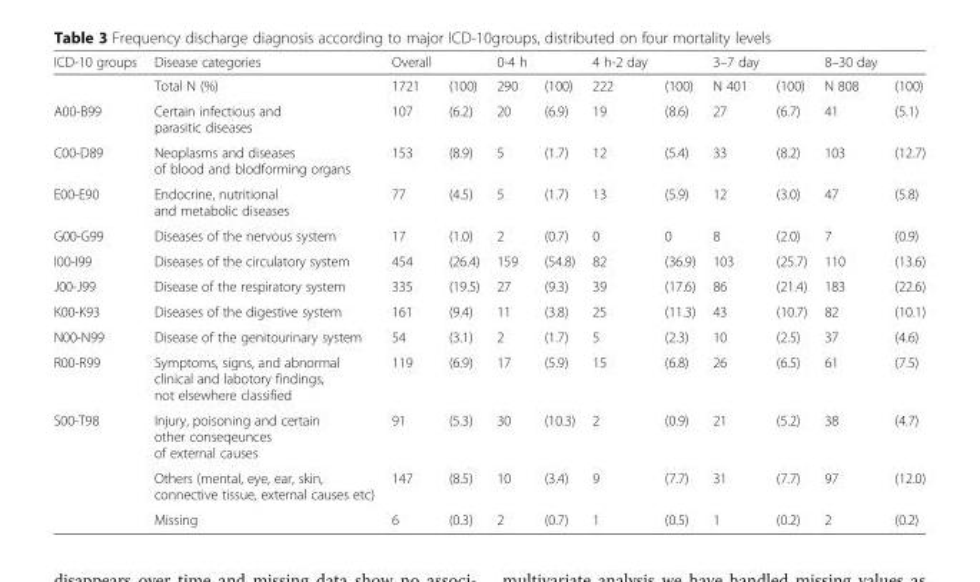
<table><thead><tr><td>ICD-10 groups</td><td>Disease categories</td><td>Overall</td><td></td><td>0-4 h</td><td></td><td>4 h-2 day</td><td></td><td>3–7 day</td><td></td><td>8–30 day</td><td></td></tr></thead><tbody><tr><td></td><td>Total N (%)</td><td>1721</td><td>(100)</td><td>290</td><td>(100)</td><td>222</td><td>(100)</td><td>N 401</td><td>(100)</td><td>N 808</td><td>(100)</td></tr><tr><td>A00-B99</td><td>Certain infectious and parasitic diseases</td><td>107</td><td>(6.2)</td><td>20</td><td>(6.9)</td><td>19</td><td>(8.6)</td><td>27</td><td>(6.7)</td><td>41</td><td>(5.1)</td></tr><tr><td>C00-D89</td><td>Neoplasms and diseases of blood and blodforming organs</td><td>153</td><td>(8.9)</td><td>5</td><td>(1.7)</td><td>12</td><td>(5.4)</td><td>33</td><td>(8.2)</td><td>103</td><td>(12.7)</td></tr><tr><td>E00-E90</td><td>Endocrine, nutritional and metabolic diseases</td><td>77</td><td>(4.5)</td><td>5</td><td>(1.7)</td><td>13</td><td>(5.9)</td><td>12</td><td>(3.0)</td><td>47</td><td>(5.8)</td></tr><tr><td>G00-G99</td><td>Diseases of the nervous system</td><td>17</td><td>(1.0)</td><td>2</td><td>(0.7)</td><td>0</td><td>0</td><td>8</td><td>(2.0)</td><td>7</td><td>(0.9)</td></tr><tr><td>I00-I99</td><td>Diseases of the circulatory system</td><td>454</td><td>(26.4)</td><td>159</td><td>(54.8)</td><td>82</td><td>(36.9)</td><td>103</td><td>(25.7)</td><td>110</td><td>(13.6)</td></tr><tr><td>J00-J99</td><td>Disease of the respiratory system</td><td>335</td><td>(19.5)</td><td>27</td><td>(9.3)</td><td>39</td><td>(17.6)</td><td>86</td><td>(21.4)</td><td>183</td><td>(22.6)</td></tr><tr><td>K00-K93</td><td>Diseases of the digestive system</td><td>161</td><td>(9.4)</td><td>11</td><td>(3.8)</td><td>25</td><td>(11.3)</td><td>43</td><td>(10.7)</td><td>82</td><td>(10.1)</td></tr><tr><td>N00-N99</td><td>Disease of the genitourinary system</td><td>54</td><td>(3.1)</td><td>2</td><td>(1.7)</td><td>5</td><td>(2.3)</td><td>10</td><td>(2.5)</td><td>37</td><td>(4.6)</td></tr><tr><td>R00-R99</td><td>Symptoms, signs, and abnormal clinical and labotory findings, not elsewhere classified</td><td>119</td><td>(6.9)</td><td>17</td><td>(5.9)</td><td>15</td><td>(6.8)</td><td>26</td><td>(6.5)</td><td>61</td><td>(7.5)</td></tr><tr><td rowspan="3">S00-T98</td><td>Injury, poisoning and certain other conseqeunces of external causes</td><td>91</td><td>(5.3)</td><td>30</td><td>(10.3)</td><td>2</td><td>(0.9)</td><td>21</td><td>(5.2)</td><td>38</td><td>(4.7)</td></tr><tr><td>Others (mental, eye, ear, skin, connective tissue, external causes etc)</td><td>147</td><td>(8.5)</td><td>10</td><td>(3.4)</td><td>9</td><td>(7.7)</td><td>31</td><td>(7.7)</td><td>97</td><td>(12.0)</td></tr><tr><td>Missing</td><td>6</td><td>(0.3)</td><td>2</td><td>(0.7)</td><td>1</td><td>(0.5)</td><td>1</td><td>(0.2)</td><td>2</td><td>(0.2)</td></tr></tbody></table>